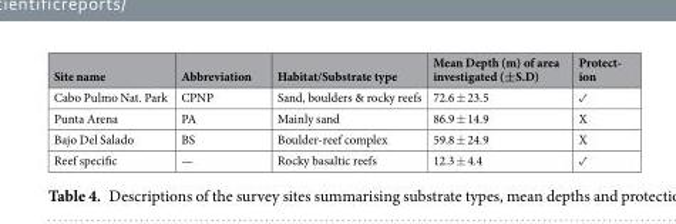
<table><thead><tr><td>Site name</td><td>Abbreviation</td><td>Habitat/Substrate type</td><td>Mean Depth (m) of area investigated (±S.D)</td><td>Protect- ion</td></tr></thead><tbody><tr><td>Cabo Pulmo Nat. Park</td><td>CPNP</td><td>Sand, boulders &amp; rocky reefs</td><td>72.6 ± 23.5</td><td>✓</td></tr><tr><td>Punta Arena</td><td>PA</td><td>Mainly sand</td><td>86.9 ± 14.9</td><td>X</td></tr><tr><td>Bajo Del Salado</td><td>BS</td><td>Boulder-reef complex</td><td>59.8 ± 24.9</td><td>X</td></tr><tr><td>Reef specific</td><td>—</td><td>Rocky basaltic reefs</td><td>12.3 ± 4.4</td><td>✓</td></tr></tbody></table>